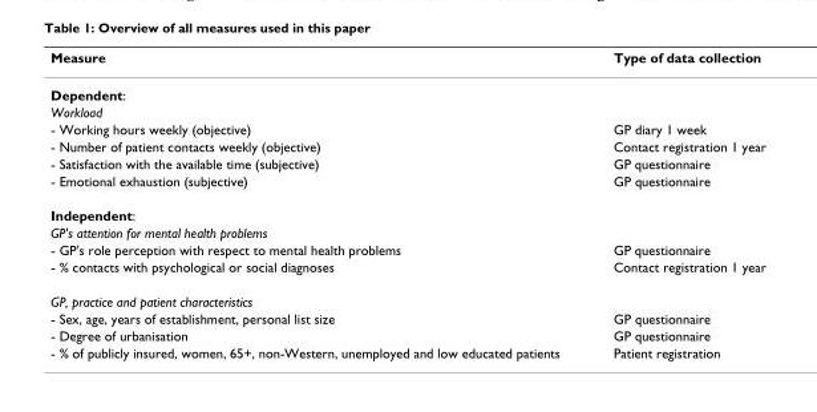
<table><thead><tr><td>Measure</td><td>Type of data collection</td></tr></thead><tbody><tr><td colspan="2">Dependent:</td></tr><tr><td colspan="2">Workload</td></tr><tr><td>- Working hours weekly (objective)</td><td>GP diary 1 week</td></tr><tr><td>- Number of patient contacts weekly (objective)</td><td>Contact registration 1 year</td></tr><tr><td>- Satisfaction with the available time (subjective)</td><td>GP questionnaire</td></tr><tr><td>- Emotional exhaustion (subjective)</td><td>GP questionnaire</td></tr><tr><td colspan="2">Independent:</td></tr><tr><td colspan="2">GP&#x27;s attention for mental health problems</td></tr><tr><td>- GP&#x27;s role perception with respect to mental health problems</td><td>GP questionnaire</td></tr><tr><td>- % contacts with psychological or social diagnoses</td><td>Contact registration 1 year</td></tr><tr><td colspan="2">GP, practice and patient characteristics</td></tr><tr><td>- Sex, age, years of establishment, personal list size</td><td>GP questionnaire</td></tr><tr><td>- Degree of urbanisation</td><td>GP questionnaire</td></tr><tr><td>- % of publicly insured, women, 65+, non-Western, unemployed and low educated patients</td><td>Patient registration</td></tr></tbody></table>